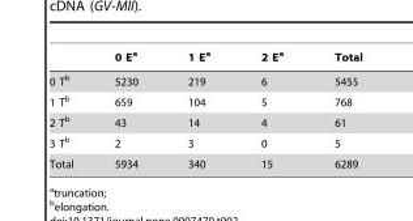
<table><thead><tr><td></td><td>0 E<sup>a</sup></td><td>1 E<sup>a</sup></td><td>2 E<sup>a</sup></td><td>Total</td></tr></thead><tbody><tr><td>0 T<sup>b</sup></td><td>5230</td><td>219</td><td>6</td><td>5455</td></tr><tr><td>1 T<sup>b</sup></td><td>659</td><td>104</td><td>5</td><td>768</td></tr><tr><td>2 T<sup>b</sup></td><td>43</td><td>14</td><td>4</td><td>61</td></tr><tr><td>3 T<sup>b</sup></td><td>2</td><td>3</td><td>0</td><td>5</td></tr><tr><td>Total</td><td>5934</td><td>340</td><td>15</td><td>6289</td></tr></tbody></table>